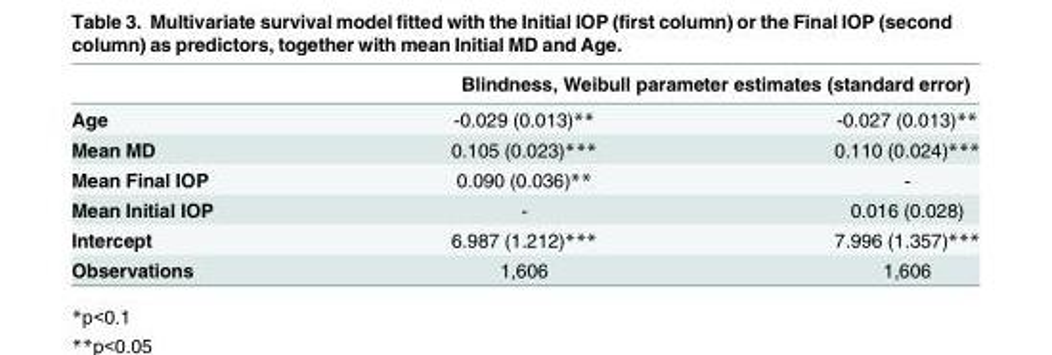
<table><thead><tr><td rowspan="2">Age</td><td colspan="2">Blindness, Weibull parameter estimates (standard error)</td></tr><tr><td>-0.029 (0.013)**</td><td>-0.027 (0.013)**</td></tr></thead><tbody><tr><td>Mean MD</td><td>0.105 (0.023)***</td><td>0.110 (0.024)***</td></tr><tr><td>Mean Final IOP</td><td>0.090 (0.036)**</td><td>-</td></tr><tr><td>Mean Initial IOP</td><td>-</td><td>0.016 (0.028)</td></tr><tr><td>Intercept</td><td>6.987 (1.212)***</td><td>7.996 (1.357)***</td></tr><tr><td>Observations</td><td>1,606</td><td>1,606</td></tr></tbody></table>